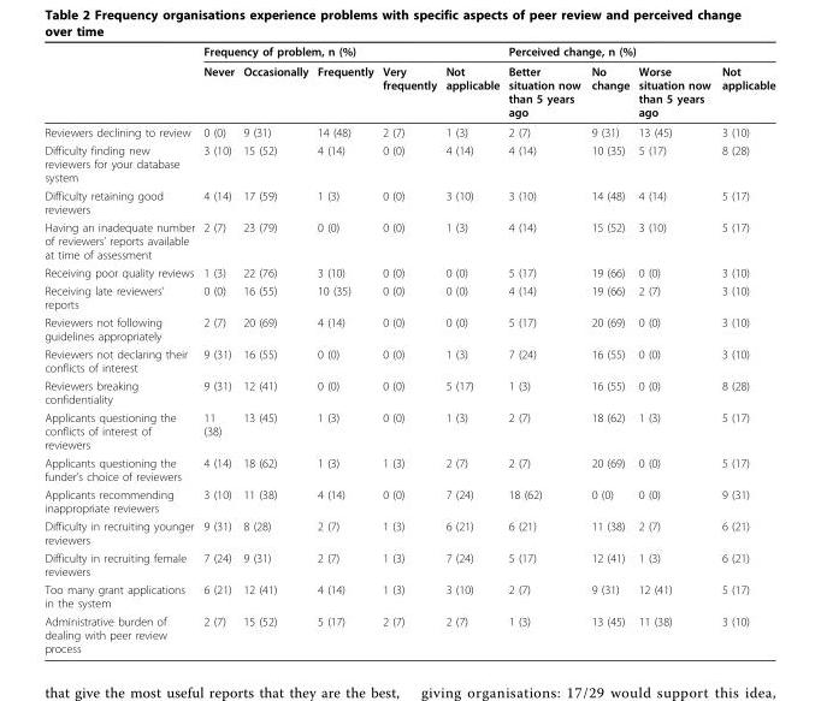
<table><thead><tr><td rowspan="2"></td><td colspan="5">Frequency of problem, n (%)</td><td colspan="4">Perceived change, n (%)</td></tr><tr><td>Never</td><td>Occasionally</td><td>Frequently</td><td>Very frequently</td><td>Not applicable</td><td>Better situation now than 5 years ago</td><td>No change</td><td>Worse situation now than 5 years ago</td><td>Not applicable</td></tr></thead><tbody><tr><td>Reviewers declining to review</td><td>0 (0)</td><td>9 (31)</td><td>14 (48)</td><td>2 (7)</td><td>1 (3)</td><td>2 (7)</td><td>9 (31)</td><td>13 (45)</td><td>3 (10)</td></tr><tr><td>Difficulty finding new reviewers for your database system</td><td>3 (10)</td><td>15 (52)</td><td>4 (14)</td><td>0 (0)</td><td>4 (14)</td><td>4 (14)</td><td>10 (35)</td><td>5 (17)</td><td>8 (28)</td></tr><tr><td>Difficulty retaining good reviewers</td><td>4 (14)</td><td>17 (59)</td><td>1 (3)</td><td>0 (0)</td><td>3 (10)</td><td>3 (10)</td><td>14 (48)</td><td>4 (14)</td><td>5 (17)</td></tr><tr><td>Having an inadequate number of reviewers’ reports available at time of assessment</td><td>2 (7)</td><td>23 (79)</td><td>0 (0)</td><td>0 (0)</td><td>1 (3)</td><td>4 (14)</td><td>15 (52)</td><td>3 (10)</td><td>5 (17)</td></tr><tr><td>Receiving poor quality reviews</td><td>1 (3)</td><td>22 (76)</td><td>3 (10)</td><td>0 (0)</td><td>0 (0)</td><td>5 (17)</td><td>19 (66)</td><td>0 (0)</td><td>3 (10)</td></tr><tr><td>Receiving late reviewers’ reports</td><td>0 (0)</td><td>16 (55)</td><td>10 (35)</td><td>0 (0)</td><td>0 (0)</td><td>4 (14)</td><td>19 (66)</td><td>2 (7)</td><td>3 (10)</td></tr><tr><td>Reviewers not following guidelines appropriately</td><td>2 (7)</td><td>20 (69)</td><td>4 (14)</td><td>0 (0)</td><td>0 (0)</td><td>5 (17)</td><td>20 (69)</td><td>0 (0)</td><td>3 (10)</td></tr><tr><td>Reviewers not declaring their conflicts of interest</td><td>9 (31)</td><td>16 (55)</td><td>0 (0)</td><td>0 (0)</td><td>1 (3)</td><td>7 (24)</td><td>16 (55)</td><td>0 (0)</td><td>3 (10)</td></tr><tr><td>Reviewers breaking confidentiality</td><td>9 (31)</td><td>12 (41)</td><td>0 (0)</td><td>0 (0)</td><td>5 (17)</td><td>1 (3)</td><td>16 (55)</td><td>0 (0)</td><td>8 (28)</td></tr><tr><td>Applicants questioning the conflicts of interest of reviewers</td><td>11 (38)</td><td>13 (45)</td><td>1 (3)</td><td>0 (0)</td><td>1 (3)</td><td>2 (7)</td><td>18 (62)</td><td>1 (3)</td><td>5 (17)</td></tr><tr><td>Applicants questioning the funder’s choice of reviewers</td><td>4 (14)</td><td>18 (62)</td><td>1 (3)</td><td>1 (3)</td><td>2 (7)</td><td>2 (7)</td><td>20 (69)</td><td>0 (0)</td><td>5 (17)</td></tr><tr><td>Applicants recommending inappropriate reviewers</td><td>3 (10)</td><td>11 (38)</td><td>4 (14)</td><td>0 (0)</td><td>7 (24)</td><td>18 (62)</td><td>0 (0)</td><td>0 (0)</td><td>9 (31)</td></tr><tr><td>Difficulty in recruiting younger reviewers</td><td>9 (31)</td><td>8 (28)</td><td>2 (7)</td><td>1 (3)</td><td>6 (21)</td><td>6 (21)</td><td>11 (38)</td><td>2 (7)</td><td>6 (21)</td></tr><tr><td>Difficulty in recruiting female reviewers</td><td>7 (24)</td><td>9 (31)</td><td>2 (7)</td><td>1 (3)</td><td>7 (24)</td><td>5 (17)</td><td>12 (41)</td><td>1 (3)</td><td>6 (21)</td></tr><tr><td>Too many grant applications in the system</td><td>6 (21)</td><td>12 (41)</td><td>4 (14)</td><td>1 (3)</td><td>3 (10)</td><td>2 (7)</td><td>9 (31)</td><td>12 (41)</td><td>5 (17)</td></tr><tr><td>Administrative burden of dealing with peer review process</td><td>2 (7)</td><td>15 (52)</td><td>5 (17)</td><td>2 (7)</td><td>2 (7)</td><td>1 (3)</td><td>13 (45)</td><td>11 (38)</td><td>3 (10)</td></tr></tbody></table>